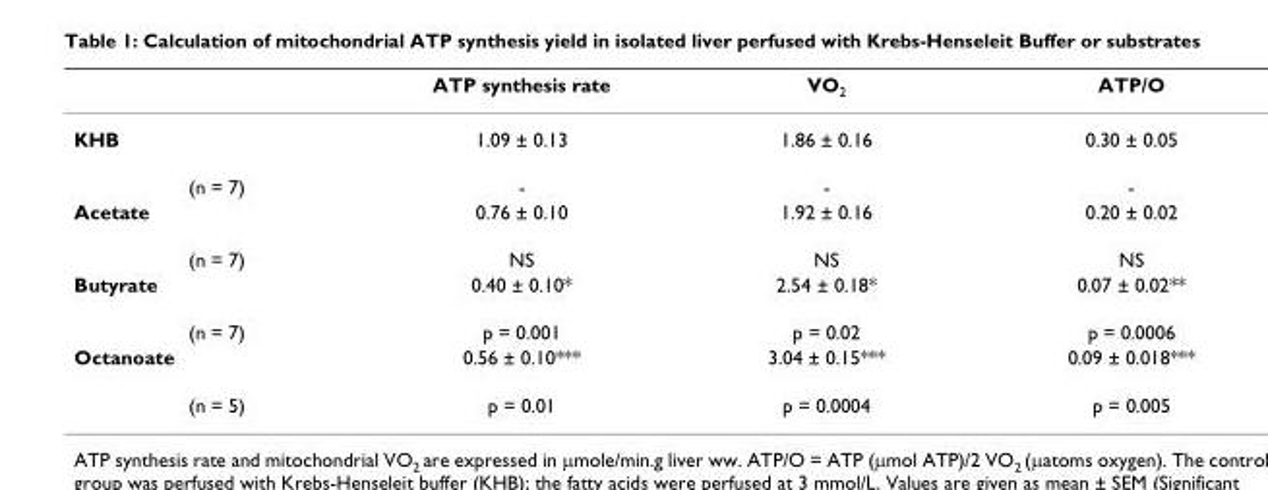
<table><thead><tr><td></td><td>ATP synthesis rate</td><td>VO<sub>2</sub></td><td>ATP/O</td></tr></thead><tbody><tr><td>KHB</td><td>1.09 ± 0.13</td><td>1.86 ± 0.16</td><td>0.30 ± 0.05</td></tr><tr><td>(n = 7)</td><td>-</td><td>-</td><td>-</td></tr><tr><td>Acetate</td><td>0.76 ± 0.10</td><td>1.92 ± 0.16</td><td>0.20 ± 0.02</td></tr><tr><td>(n = 7)</td><td>NS</td><td>NS</td><td>NS</td></tr><tr><td>Butyrate</td><td>0.40 ± 0.10*</td><td>2.54 ± 0.18*</td><td>0.07 ± 0.02**</td></tr><tr><td>(n = 7)</td><td>p = 0.001</td><td>p = 0.02</td><td>p = 0.0006</td></tr><tr><td>Octanoate</td><td>0.56 ± 0.10***</td><td>3.04 ± 0.15***</td><td>0.09 ± 0.018***</td></tr><tr><td>(n = 5)</td><td>p = 0.01</td><td>p = 0.0004</td><td>p = 0.005</td></tr></tbody></table>